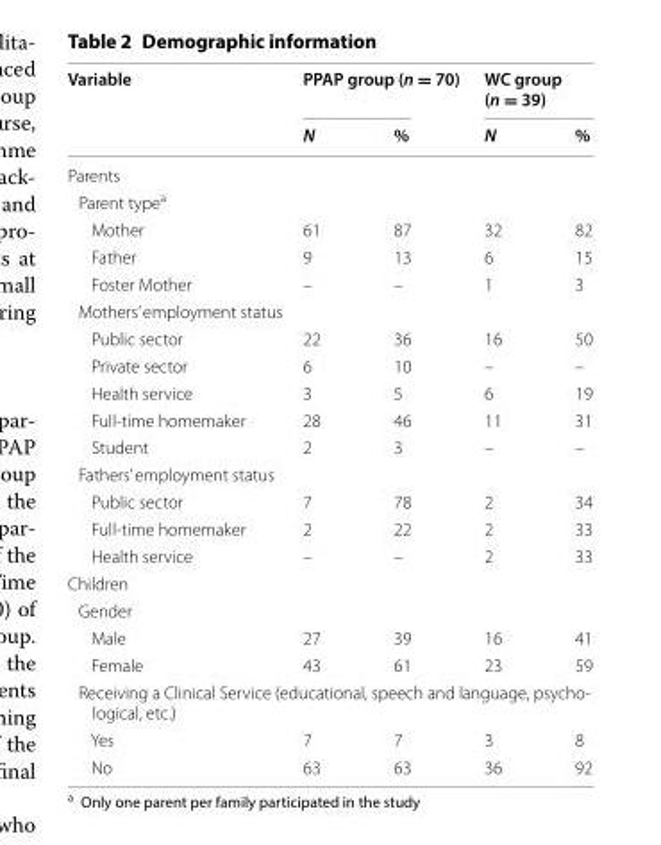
<table><thead><tr><td rowspan="2">Variable</td><td colspan="2">PPAP group (n = 70)</td><td colspan="2">WC group (n = 39)</td></tr><tr><td>N</td><td>%</td><td>N</td><td>%</td></tr></thead><tbody><tr><td colspan="5">Parents</td></tr><tr><td colspan="5">Parent type<sup>a</sup></td></tr><tr><td>Mother</td><td>61</td><td>87</td><td>32</td><td>82</td></tr><tr><td>Father</td><td>9</td><td>13</td><td>6</td><td>15</td></tr><tr><td>Foster Mother</td><td>–</td><td>–</td><td>1</td><td>3</td></tr><tr><td colspan="5">Mothers’ employment status</td></tr><tr><td>Public sector</td><td>22</td><td>36</td><td>16</td><td>50</td></tr><tr><td>Private sector</td><td>6</td><td>10</td><td>–</td><td>–</td></tr><tr><td>Health service</td><td>3</td><td>5</td><td>6</td><td>19</td></tr><tr><td>Full-time homemaker</td><td>28</td><td>46</td><td>11</td><td>31</td></tr><tr><td>Student</td><td>2</td><td>3</td><td>–</td><td>–</td></tr><tr><td colspan="5">Fathers’ employment status</td></tr><tr><td>Public sector</td><td>7</td><td>78</td><td>2</td><td>34</td></tr><tr><td>Full-time homemaker</td><td>2</td><td>22</td><td>2</td><td>33</td></tr><tr><td>Health service</td><td>–</td><td>–</td><td>2</td><td>33</td></tr><tr><td colspan="5">Children</td></tr><tr><td colspan="5">Gender</td></tr><tr><td>Male</td><td>27</td><td>39</td><td>16</td><td>41</td></tr><tr><td>Female</td><td>43</td><td>61</td><td>23</td><td>59</td></tr><tr><td colspan="5">Receiving a Clinical Service (educational, speech and language, psycho- logical, etc.)</td></tr><tr><td>Yes</td><td>7</td><td>7</td><td>3</td><td>8</td></tr><tr><td>No</td><td>63</td><td>63</td><td>36</td><td>92</td></tr></tbody></table>